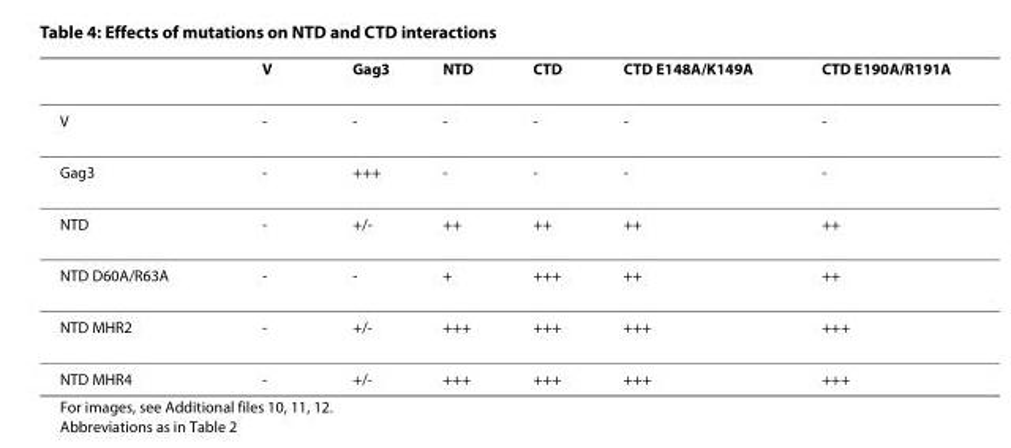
<table><thead><tr><td></td><td>V</td><td>Gag3</td><td>NTD</td><td>CTD</td><td>CTD E148A/K149A</td><td>CTD E190A/R191A</td></tr></thead><tbody><tr><td>V</td><td>-</td><td>-</td><td>-</td><td>-</td><td>-</td><td>-</td></tr><tr><td>Gag3</td><td>-</td><td>+++</td><td>-</td><td>-</td><td>-</td><td>-</td></tr><tr><td>NTD</td><td>-</td><td>+/-</td><td>++</td><td>++</td><td>++</td><td>++</td></tr><tr><td>NTD D60A/R63A</td><td>-</td><td>-</td><td>+</td><td>+++</td><td>++</td><td>++</td></tr><tr><td>NTD MHR2</td><td>-</td><td>+/-</td><td>+++</td><td>+++</td><td>+++</td><td>+++</td></tr><tr><td>NTD MHR4</td><td>-</td><td>+/-</td><td>+++</td><td>+++</td><td>+++</td><td>+++</td></tr></tbody></table>